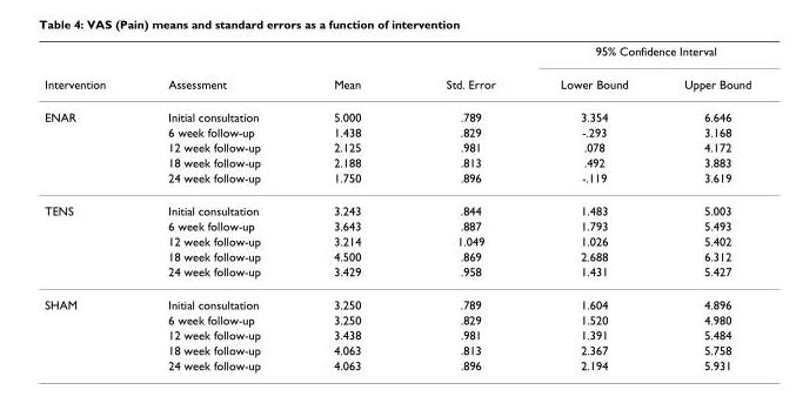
<table><thead><tr><td rowspan="2">Intervention</td><td rowspan="2">Assessment</td><td rowspan="2">Mean</td><td rowspan="2">Std. Error</td><td colspan="2">95% Confidence Interval</td></tr><tr><td>Lower Bound</td><td>Upper Bound</td></tr></thead><tbody><tr><td rowspan="5">ENAR</td><td>Initial consultation</td><td>5.000</td><td>.789</td><td>3.354</td><td>6.646</td></tr><tr><td>6 week follow-up</td><td>1.438</td><td>.829</td><td>-.293</td><td>3.168</td></tr><tr><td>12 week follow-up</td><td>2.125</td><td>.981</td><td>.078</td><td>4.172</td></tr><tr><td>18 week follow-up</td><td>2.188</td><td>.813</td><td>.492</td><td>3.883</td></tr><tr><td>24 week follow-up</td><td>1.750</td><td>.896</td><td>-.119</td><td>3.619</td></tr><tr><td rowspan="5">TENS</td><td>Initial consultation</td><td>3.243</td><td>.844</td><td>1.483</td><td>5.003</td></tr><tr><td>6 week follow-up</td><td>3.643</td><td>.887</td><td>1.793</td><td>5.493</td></tr><tr><td>12 week follow-up</td><td>3.214</td><td>1.049</td><td>1.026</td><td>5.402</td></tr><tr><td>18 week follow-up</td><td>4.500</td><td>.869</td><td>2.688</td><td>6.312</td></tr><tr><td>24 week follow-up</td><td>3.429</td><td>.958</td><td>1.431</td><td>5.427</td></tr><tr><td rowspan="5">SHAM</td><td>Initial consultation</td><td>3.250</td><td>.789</td><td>1.604</td><td>4.896</td></tr><tr><td>6 week follow-up</td><td>3.250</td><td>.829</td><td>1.520</td><td>4.980</td></tr><tr><td>12 week follow-up</td><td>3.438</td><td>.981</td><td>1.391</td><td>5.484</td></tr><tr><td>18 week follow-up</td><td>4.063</td><td>.813</td><td>2.367</td><td>5.758</td></tr><tr><td>24 week follow-up</td><td>4.063</td><td>.896</td><td>2.194</td><td>5.931</td></tr></tbody></table>